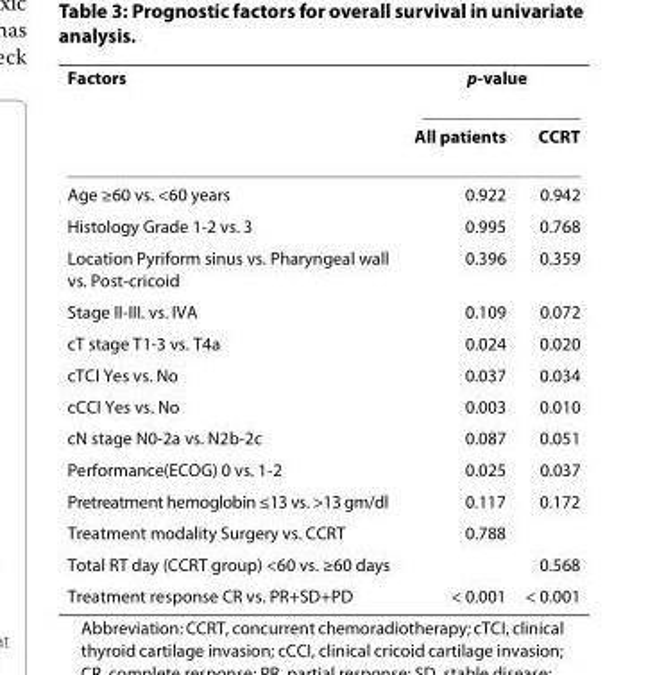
<table><thead><tr><td rowspan="2">Factors</td><td colspan="2">p-value</td></tr><tr><td>All patients</td><td>CCRT</td></tr></thead><tbody><tr><td>Age ≥60 vs. &lt;60 years</td><td>0.922</td><td>0.942</td></tr><tr><td>Histology Grade 1-2 vs. 3</td><td>0.995</td><td>0.768</td></tr><tr><td>Location Pyriform sinus vs. Pharyngeal wall vs. Post-cricoid</td><td>0.396</td><td>0.359</td></tr><tr><td>Stage II-III. vs. IVA</td><td>0.109</td><td>0.072</td></tr><tr><td>cT stage T1-3 vs. T4a</td><td>0.024</td><td>0.020</td></tr><tr><td>cTCI Yes vs. No</td><td>0.037</td><td>0.034</td></tr><tr><td>cCCI Yes vs. No</td><td>0.003</td><td>0.010</td></tr><tr><td>cN stage N0-2a vs. N2b-2c</td><td>0.087</td><td>0.051</td></tr><tr><td>Performance(ECOG) 0 vs. 1-2</td><td>0.025</td><td>0.037</td></tr><tr><td>Pretreatment hemoglobin ≤13 vs. &gt;13 gm/dl</td><td>0.117</td><td>0.172</td></tr><tr><td>Treatment modality Surgery vs. CCRT</td><td>0.788</td><td></td></tr><tr><td>Total RT day (CCRT group) &lt;60 vs. ≥60 days</td><td></td><td>0.568</td></tr><tr><td>Treatment response CR vs. PR+SD+PD</td><td>&lt; 0.001</td><td>&lt; 0.001</td></tr></tbody></table>